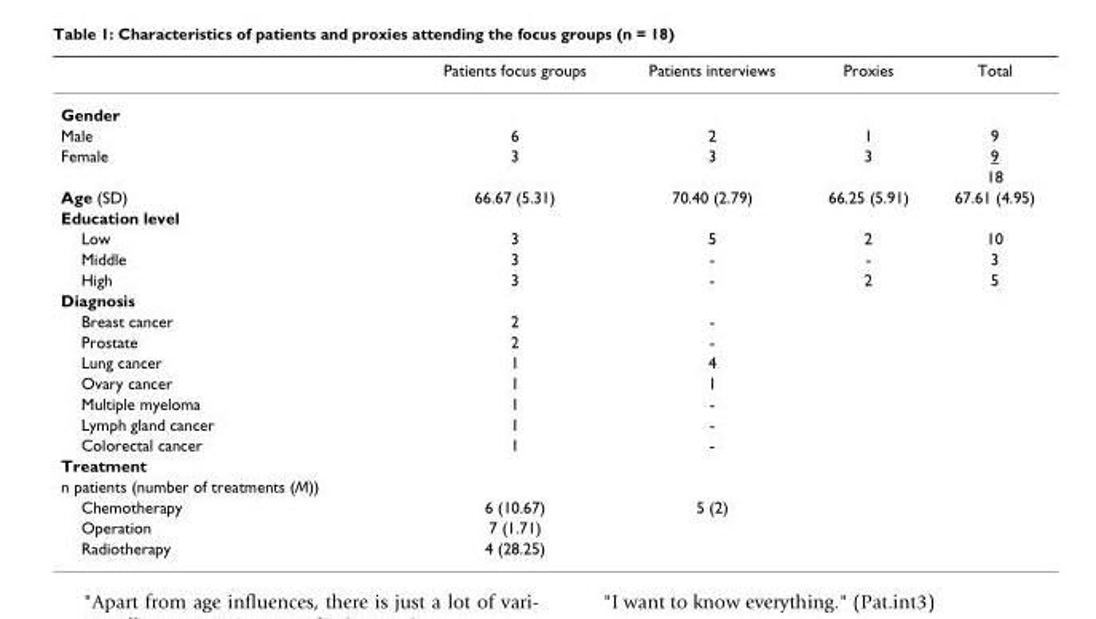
<table><thead><tr><td></td><td>Patients focus groups</td><td>Patients interviews</td><td>Proxies</td><td>Total</td></tr></thead><tbody><tr><td colspan="5">Gender</td></tr><tr><td>Male</td><td>6</td><td>2</td><td>1</td><td>9</td></tr><tr><td rowspan="2">Female</td><td>3</td><td>3</td><td>3</td><td>9</td></tr><tr><td></td><td></td><td></td><td>18</td></tr><tr><td>Age (SD)</td><td>66.67 (5.31)</td><td>70.40 (2.79)</td><td>66.25 (5.91)</td><td>67.61 (4.95)</td></tr><tr><td colspan="5">Education level</td></tr><tr><td>Low</td><td>3</td><td>5</td><td>2</td><td>10</td></tr><tr><td>Middle</td><td>3</td><td>-</td><td>-</td><td>3</td></tr><tr><td>High</td><td>3</td><td>-</td><td>2</td><td>5</td></tr><tr><td colspan="5">Diagnosis</td></tr><tr><td>Breast cancer</td><td>2</td><td>-</td><td></td><td></td></tr><tr><td>Prostate</td><td>2</td><td>-</td><td></td><td></td></tr><tr><td>Lung cancer</td><td>1</td><td>4</td><td></td><td></td></tr><tr><td>Ovary cancer</td><td>1</td><td>1</td><td></td><td></td></tr><tr><td>Multiple myeloma</td><td>1</td><td>-</td><td></td><td></td></tr><tr><td>Lymph gland cancer</td><td>1</td><td>-</td><td></td><td></td></tr><tr><td>Colorectal cancer</td><td>1</td><td>-</td><td></td><td></td></tr><tr><td colspan="5">Treatment</td></tr><tr><td colspan="5">n patients (number of treatments (M))</td></tr><tr><td>Chemotherapy</td><td>6 (10.67)</td><td>5 (2)</td><td></td><td></td></tr><tr><td>Operation</td><td>7 (1.71)</td><td></td><td></td><td></td></tr><tr><td>Radiotherapy</td><td>4 (28.25)</td><td></td><td></td><td></td></tr></tbody></table>